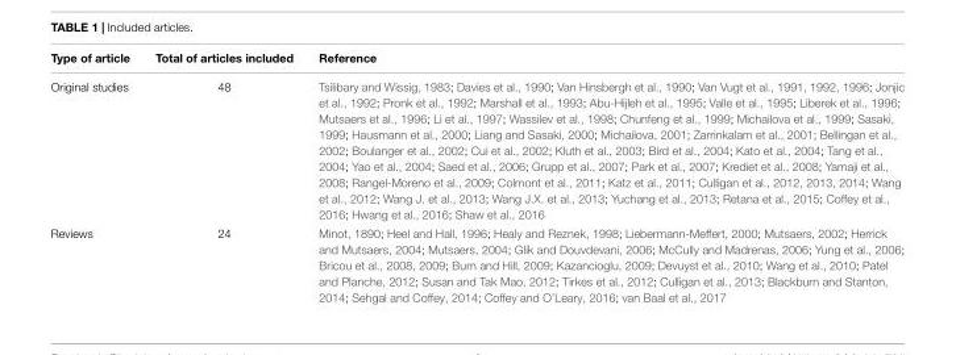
<table><thead><tr><td>Type of article</td><td>Total of articles included</td><td>Reference</td></tr></thead><tbody><tr><td>Original studies</td><td>48</td><td>Tsilibary and Wissig, 1983; Davies et al., 1990; Van Hinsbergh et al., 1990; Van Vugt et al., 1991, 1992, 1996; Jonjic et al., 1992; Pronk et al., 1992; Marshall et al., 1993; Abu-Hijleh et al., 1995; Valle et al., 1995; Liberek et al., 1996; Mutsaers et al., 1996; Li et al., 1997; Wassilev et al., 1998; Chunfeng et al., 1999; Michailova et al., 1999; Sasaki, 1999; Hausmann et al., 2000; Liang and Sasaki, 2000; Michailova, 2001; Zarrinkalam et al., 2001; Bellingan et al., 2002; Boulanger et al., 2002; Cui et al., 2002; Kluth et al., 2003; Bird et al., 2004; Kato et al., 2004; Tang et al., 2004; Yao et al., 2004; Saed et al., 2006; Grupp et al., 2007; Park et al., 2007; Krediet et al., 2008; Yamaji et al., 2008; Rangel-Moreno et al., 2009; Colmont et al., 2011; Katz et al., 2011; Culligan et al., 2012, 2013, 2014; Wang et al., 2012; Wang J. et al., 2013; Wang J.X. et al., 2013; Yuchang et al., 2013; Retana et al., 2015; Coffey et al., 2016; Hwang et al., 2016; Shaw et al., 2016</td></tr><tr><td>Reviews</td><td>24</td><td>Minot, 1890; Heel and Hall, 1996; Healy and Reznek, 1998; Liebermann-Meffert, 2000; Mutsaers, 2002; Herrick and Mutsaers, 2004; Mutsaers, 2004; Glik and Douvdevani, 2006; McCully and Madrenas, 2006; Yung et al., 2006; Bricou et al., 2008, 2009; Burn and Hill, 2009; Kazancioglu, 2009; Devuyst et al., 2010; Wang et al., 2010; Patel and Planche, 2012; Susan and Tak Mao, 2012; Tirkes et al., 2012; Culligan et al., 2013; Blackburn and Stanton, 2014; Sehgal and Coffey, 2014; Coffey and O’Leary, 2016; van Baal et al., 2017</td></tr></tbody></table>